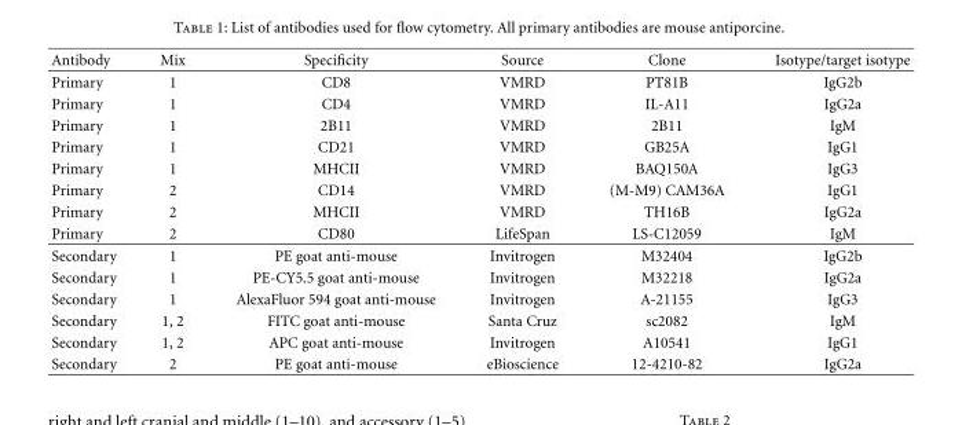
<table><thead><tr><td>Antibody</td><td>Mix</td><td>Specificity</td><td>Source</td><td>Clone</td><td>Isotype/target isotype</td></tr></thead><tbody><tr><td>Primary</td><td>1</td><td>CD8</td><td>VMRD</td><td>PT81B</td><td>IgG2b</td></tr><tr><td>Primary</td><td>1</td><td>CD4</td><td>VMRD</td><td>IL-A11</td><td>IgG2a</td></tr><tr><td>Primary</td><td>1</td><td>2B11</td><td>VMRD</td><td>2B11</td><td>IgM</td></tr><tr><td>Primary</td><td>1</td><td>CD21</td><td>VMRD</td><td>GB25A</td><td>IgG1</td></tr><tr><td>Primary</td><td>1</td><td>MHCII</td><td>VMRD</td><td>BAQ150A</td><td>IgG3</td></tr><tr><td>Primary</td><td>2</td><td>CD14</td><td>VMRD</td><td>(M-M9) CAM36A</td><td>IgG1</td></tr><tr><td>Primary</td><td>2</td><td>MHCII</td><td>VMRD</td><td>TH16B</td><td>IgG2a</td></tr><tr><td>Primary</td><td>2</td><td>CD80</td><td>LifeSpan</td><td>LS-C12059</td><td>IgM</td></tr><tr><td>Secondary</td><td>1</td><td>PE goat anti-mouse</td><td>Invitrogen</td><td>M32404</td><td>IgG2b</td></tr><tr><td>Secondary</td><td>1</td><td>PE-CY5.5 goat anti-mouse</td><td>Invitrogen</td><td>M32218</td><td>IgG2a</td></tr><tr><td>Secondary</td><td>1</td><td>AlexaFluor 594 goat anti-mouse</td><td>Invitrogen</td><td>A-21155</td><td>IgG3</td></tr><tr><td>Secondary</td><td>1, 2</td><td>FITC goat anti-mouse</td><td>Santa Cruz</td><td>sc2082</td><td>IgM</td></tr><tr><td>Secondary</td><td>1, 2</td><td>APC goat anti-mouse</td><td>Invitrogen</td><td>A10541</td><td>IgG1</td></tr><tr><td>Secondary</td><td>2</td><td>PE goat anti-mouse</td><td>eBioscience</td><td>12-4210-82</td><td>IgG2a</td></tr></tbody></table>